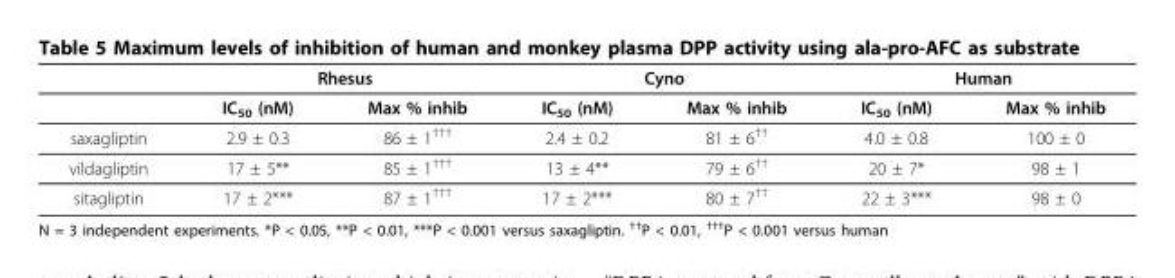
<table><thead><tr><td rowspan="2"></td><td colspan="2">Rhesus</td><td colspan="2">Cyno</td><td colspan="2">Human</td></tr><tr><td>IC<sub>50</sub> (nM)</td><td>Max % inhib</td><td>IC<sub>50</sub> (nM)</td><td>Max % inhib</td><td>IC<sub>50</sub> (nM)</td><td>Max % inhib</td></tr></thead><tbody><tr><td>saxagliptin</td><td>2.9 ± 0.3</td><td>86 ± 1<sup>†††</sup></td><td>2.4 ± 0.2</td><td>81 ± 6<sup>††</sup></td><td>4.0 ± 0.8</td><td>100 ± 0</td></tr><tr><td>vildagliptin</td><td>17 ± 5**</td><td>85 ± 1<sup>†††</sup></td><td>13 ± 4**</td><td>79 ± 6<sup>††</sup></td><td>20 ± 7*</td><td>98 ± 1</td></tr><tr><td>sitagliptin</td><td>17 ± 2***</td><td>87 ± 1<sup>†††</sup></td><td>17 ± 2***</td><td>80 ± 7<sup>††</sup></td><td>22 ± 3***</td><td>98 ± 0</td></tr></tbody></table>